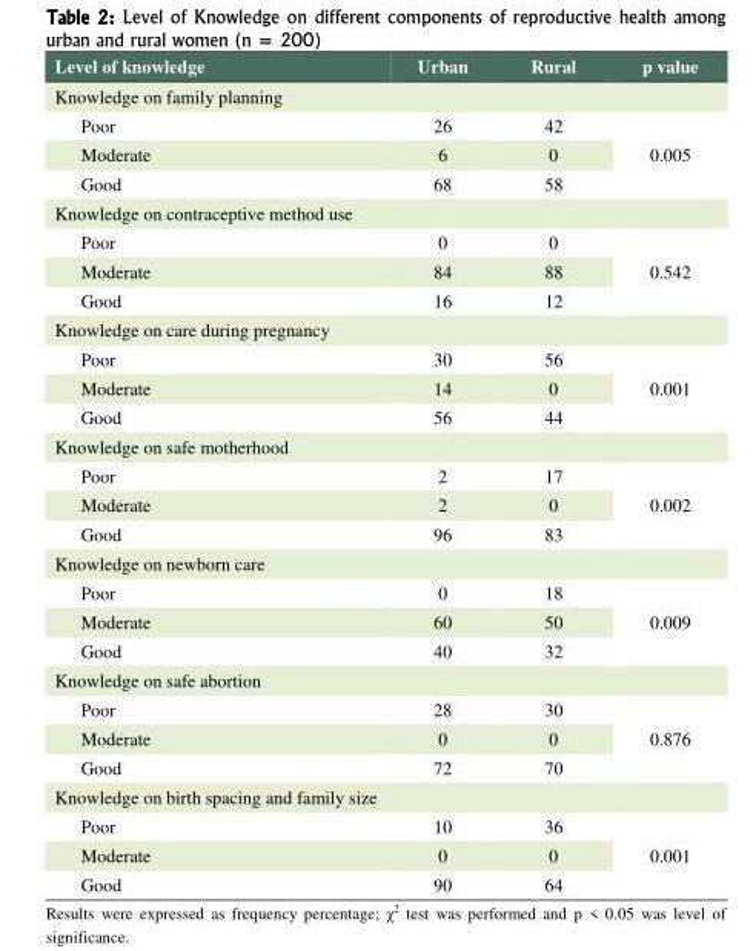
<table><thead><tr><td>Level of knowledge</td><td>Urban</td><td>Rural</td><td>p value</td></tr></thead><tbody><tr><td colspan="4">Knowledge on family planning</td></tr><tr><td>Poor</td><td>26</td><td>42</td><td rowspan="3">0.005</td></tr><tr><td>Moderate</td><td>6</td><td>0</td></tr><tr><td>Good</td><td>68</td><td>58</td></tr><tr><td colspan="4">Knowledge on contraceptive method use</td></tr><tr><td>Poor</td><td>0</td><td>0</td><td rowspan="3">0.542</td></tr><tr><td>Moderate</td><td>84</td><td>88</td></tr><tr><td>Good</td><td>16</td><td>12</td></tr><tr><td colspan="4">Knowledge on care during pregnancy</td></tr><tr><td>Poor</td><td>30</td><td>56</td><td rowspan="3">0.001</td></tr><tr><td>Moderate</td><td>14</td><td>0</td></tr><tr><td>Good</td><td>56</td><td>44</td></tr><tr><td colspan="4">Knowledge on safe motherhood</td></tr><tr><td>Poor</td><td>2</td><td>17</td><td rowspan="3">0.002</td></tr><tr><td>Moderate</td><td>2</td><td>0</td></tr><tr><td>Good</td><td>96</td><td>83</td></tr><tr><td colspan="4">Knowledge on newborn care</td></tr><tr><td>Poor</td><td>0</td><td>18</td><td rowspan="3">0.009</td></tr><tr><td>Moderate</td><td>60</td><td>50</td></tr><tr><td>Good</td><td>40</td><td>32</td></tr><tr><td colspan="4">Knowledge on safe abortion</td></tr><tr><td>Poor</td><td>28</td><td>30</td><td rowspan="3">0.876</td></tr><tr><td>Moderate</td><td>0</td><td>0</td></tr><tr><td>Good</td><td>72</td><td>70</td></tr><tr><td colspan="4">Knowledge on birth spacing and family size</td></tr><tr><td>Poor</td><td>10</td><td>36</td><td rowspan="3">0.001</td></tr><tr><td>Moderate</td><td>0</td><td>0</td></tr><tr><td>Good</td><td>90</td><td>64</td></tr></tbody></table>